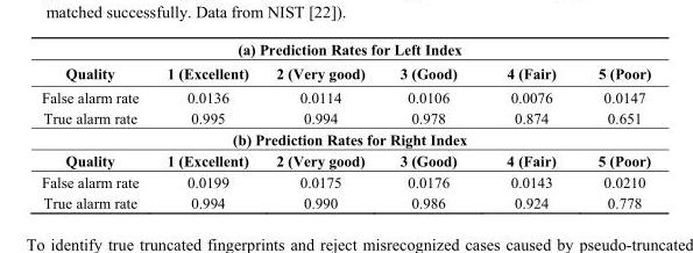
<table><thead><tr><td colspan="6">(a) Prediction Rates for Left Index</td></tr><tr><td>Quality</td><td>1 (Excellent)</td><td>2 (Very good)</td><td>3 (Good)</td><td>4 (Fair)</td><td>5 (Poor)</td></tr></thead><tbody><tr><td>False alarm rate</td><td>0.0136</td><td>0.0114</td><td>0.0106</td><td>0.0076</td><td>0.0147</td></tr><tr><td>True alarm rate</td><td>0.995</td><td>0.994</td><td>0.978</td><td>0.874</td><td>0.651</td></tr><tr><td colspan="6">(b) Prediction Rates for Right Index</td></tr><tr><td>Quality</td><td>1 (Excellent)</td><td>2 (Very good)</td><td>3 (Good)</td><td>4 (Fair)</td><td>5 (Poor)</td></tr><tr><td>False alarm rate</td><td>0.0199</td><td>0.0175</td><td>0.0176</td><td>0.0143</td><td>0.0210</td></tr><tr><td>True alarm rate</td><td>0.994</td><td>0.990</td><td>0.986</td><td>0.924</td><td>0.778</td></tr></tbody></table>